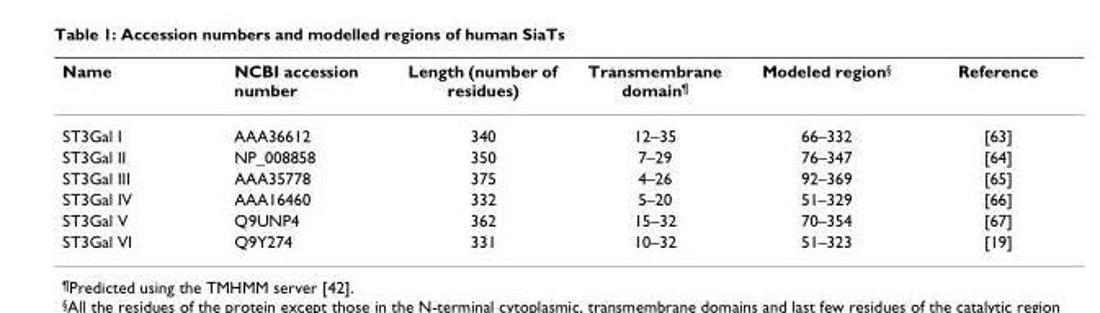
<table><thead><tr><td>Name</td><td>NCBI accession number</td><td>Length (number of residues)</td><td>Transmembrane domain¶</td><td>Modeled region§</td><td>Reference</td></tr></thead><tbody><tr><td>ST3Gal I</td><td>AAA36612</td><td>340</td><td>12–35</td><td>66–332</td><td>[63]</td></tr><tr><td>ST3Gal II</td><td>NP_008858</td><td>350</td><td>7–29</td><td>76–347</td><td>[64]</td></tr><tr><td>ST3Gal III</td><td>AAA35778</td><td>375</td><td>4–26</td><td>92–369</td><td>[65]</td></tr><tr><td>ST3Gal IV</td><td>AAA16460</td><td>332</td><td>5–20</td><td>51–329</td><td>[66]</td></tr><tr><td>ST3Gal V</td><td>Q9UNP4</td><td>362</td><td>15–32</td><td>70–354</td><td>[67]</td></tr><tr><td>ST3Gal VI</td><td>Q9Y274</td><td>331</td><td>10–32</td><td>51–323</td><td>[19]</td></tr></tbody></table>